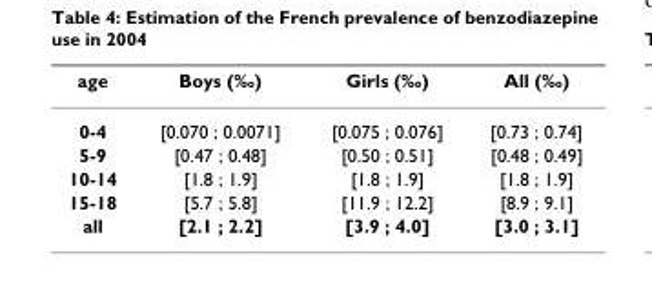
<table><thead><tr><td>age</td><td>Boys (‰)</td><td>Girls (‰)</td><td>All (‰)</td></tr></thead><tbody><tr><td>0-4</td><td>[0.070 ; 0.0071]</td><td>[0.075 ; 0.076]</td><td>[0.73 ; 0.74]</td></tr><tr><td>5-9</td><td>[0.47 ; 0.48]</td><td>[0.50 ; 0.51]</td><td>[0.48 ; 0.49]</td></tr><tr><td>10-14</td><td>[1.8 ; 1.9]</td><td>[1.8 ; 1.9]</td><td>[1.8 ; 1.9]</td></tr><tr><td>15-18</td><td>[5.7 ; 5.8]</td><td>[11.9 ; 12.2]</td><td>[8.9 ; 9.1]</td></tr><tr><td>all</td><td>[2.1 ; 2.2]</td><td>[3.9 ; 4.0]</td><td>[3.0 ; 3.1]</td></tr></tbody></table>